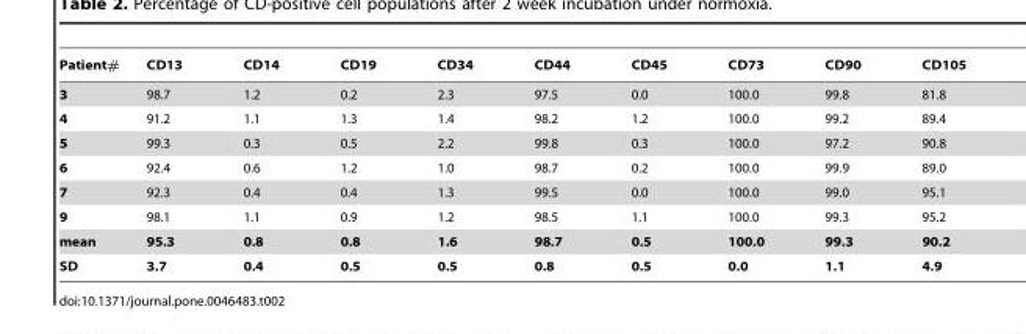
<table><thead><tr><td>Patient#</td><td>CD13</td><td>CD14</td><td>CD19</td><td>CD34</td><td>CD44</td><td>CD45</td><td>CD73</td><td>CD90</td><td>CD105</td></tr></thead><tbody><tr><td>3</td><td>98.7</td><td>1.2</td><td>0.2</td><td>2.3</td><td>97.5</td><td>0.0</td><td>100.0</td><td>99.8</td><td>81.8</td></tr><tr><td>4</td><td>91.2</td><td>1.1</td><td>1.3</td><td>1.4</td><td>98.2</td><td>1.2</td><td>100.0</td><td>99.2</td><td>89.4</td></tr><tr><td>5</td><td>99.3</td><td>0.3</td><td>0.5</td><td>2.2</td><td>99.8</td><td>0.3</td><td>100.0</td><td>97.2</td><td>90.8</td></tr><tr><td>6</td><td>92.4</td><td>0.6</td><td>1.2</td><td>1.0</td><td>98.7</td><td>0.2</td><td>100.0</td><td>99.9</td><td>89.0</td></tr><tr><td>7</td><td>92.3</td><td>0.4</td><td>0.4</td><td>1.3</td><td>99.5</td><td>0.0</td><td>100.0</td><td>99.0</td><td>95.1</td></tr><tr><td>9</td><td>98.1</td><td>1.1</td><td>0.9</td><td>1.2</td><td>98.5</td><td>1.1</td><td>100.0</td><td>99.3</td><td>95.2</td></tr><tr><td>mean</td><td>95.3</td><td>0.8</td><td>0.8</td><td>1.6</td><td>98.7</td><td>0.5</td><td>100.0</td><td>99.3</td><td>90.2</td></tr><tr><td>SD</td><td>3.7</td><td>0.4</td><td>0.5</td><td>0.5</td><td>0.8</td><td>0.5</td><td>0.0</td><td>1.1</td><td>4.9</td></tr></tbody></table>